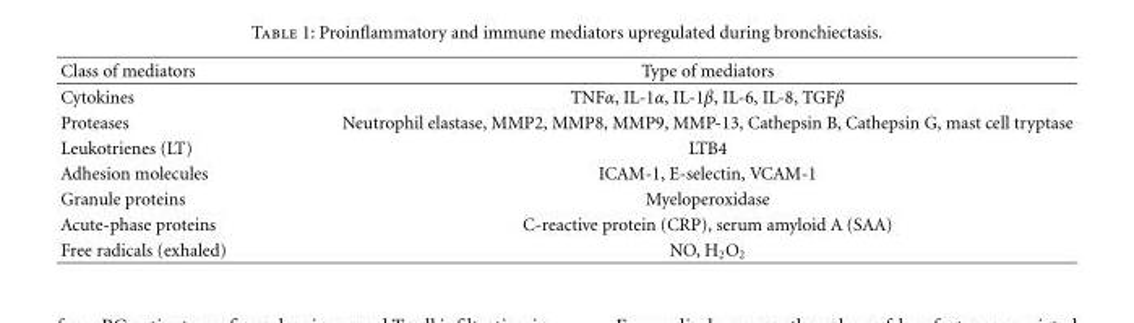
<table><thead><tr><td>Class of mediators</td><td>Type of mediators</td></tr></thead><tbody><tr><td>Cytokines</td><td>TNFα, IL-1α, IL-1β, IL-6, IL-8, TGFβ</td></tr><tr><td>Proteases</td><td>Neutrophil elastase, MMP2, MMP8, MMP9, MMP-13, Cathepsin B, Cathepsin G, mast cell tryptase</td></tr><tr><td>Leukotrienes (LT)</td><td>LTB4</td></tr><tr><td>Adhesion molecules</td><td>ICAM-1, E-selectin, VCAM-1</td></tr><tr><td>Granule proteins</td><td>Myeloperoxidase</td></tr><tr><td>Acute-phase proteins</td><td>C-reactive protein (CRP), serum amyloid A (SAA)</td></tr><tr><td>Free radicals (exhaled)</td><td>NO, H<sub>2</sub>O<sub>2</sub></td></tr></tbody></table>